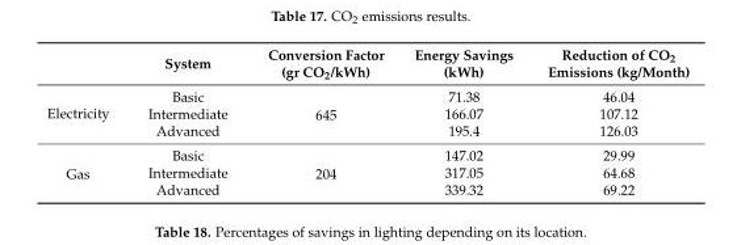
<table><thead><tr><td></td><td>System</td><td>Conversion Factor (gr CO<sub>2</sub>/kWh)</td><td>Energy Savings (kWh)</td><td>Reduction of CO<sub>2</sub> Emissions (kg/Month)</td></tr></thead><tbody><tr><td rowspan="3">Electricity</td><td>Basic</td><td rowspan="3">645</td><td>71.38</td><td>46.04</td></tr><tr><td>Intermediate</td><td>166.07</td><td>107.12</td></tr><tr><td>Advanced</td><td>195.4</td><td>126.03</td></tr><tr><td rowspan="3">Gas</td><td>Basic</td><td rowspan="3">204</td><td>147.02</td><td>29.99</td></tr><tr><td>Intermediate</td><td>317.05</td><td>64.68</td></tr><tr><td>Advanced</td><td>339.32</td><td>69.22</td></tr></tbody></table>